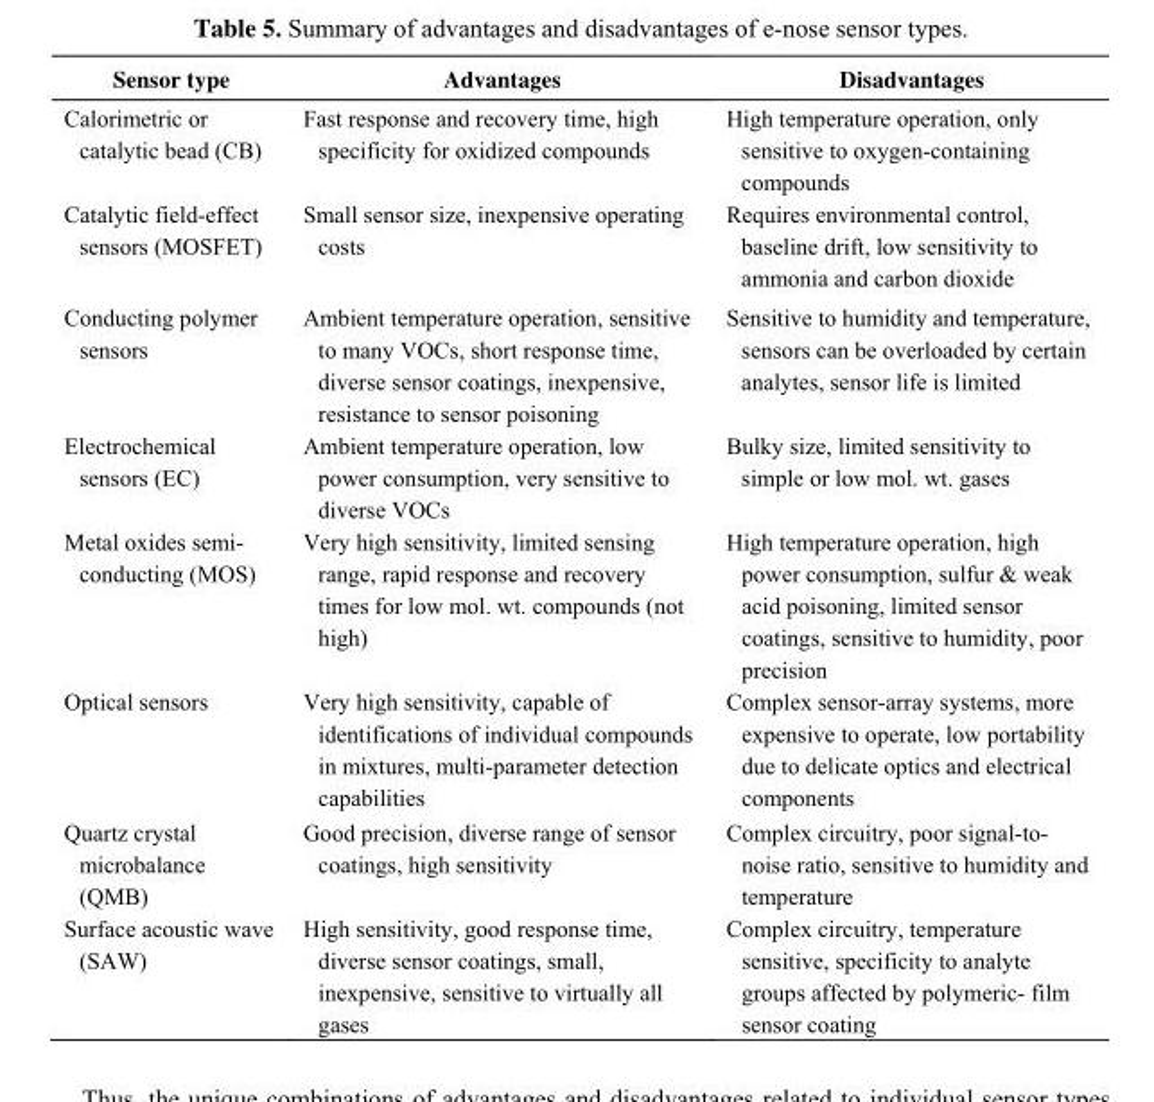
<table><thead><tr><td>Sensor type</td><td>Advantages</td><td>Disadvantages</td></tr></thead><tbody><tr><td>Calorimetric or catalytic bead (CB)</td><td>Fast response and recovery time, high specificity for oxidized compounds</td><td>High temperature operation, only sensitive to oxygen-containing compounds</td></tr><tr><td>Catalytic field-effect sensors (MOSFET)</td><td>Small sensor size, inexpensive operating costs</td><td>Requires environmental control, baseline drift, low sensitivity to ammonia and carbon dioxide</td></tr><tr><td>Conducting polymer sensors</td><td>Ambient temperature operation, sensitive to many VOCs, short response time, diverse sensor coatings, inexpensive, resistance to sensor poisoning</td><td>Sensitive to humidity and temperature, sensors can be overloaded by certain analytes, sensor life is limited</td></tr><tr><td>Electrochemical sensors (EC)</td><td>Ambient temperature operation, low power consumption, very sensitive to diverse VOCs</td><td>Bulky size, limited sensitivity to simple or low mol. wt. gases</td></tr><tr><td>Metal oxides semi- conducting (MOS)</td><td>Very high sensitivity, limited sensing range, rapid response and recovery times for low mol. wt. compounds (not high)</td><td>High temperature operation, high power consumption, sulfur &amp; weak acid poisoning, limited sensor coatings, sensitive to humidity, poor precision</td></tr><tr><td>Optical sensors</td><td>Very high sensitivity, capable of identifications of individual compounds in mixtures, multi-parameter detection capabilities</td><td>Complex sensor-array systems, more expensive to operate, low portability due to delicate optics and electrical components</td></tr><tr><td>Quartz crystal microbalance (QMB)</td><td>Good precision, diverse range of sensor coatings, high sensitivity</td><td>Complex circuitry, poor signal-to- noise ratio, sensitive to humidity and temperature</td></tr><tr><td>Surface acoustic wave (SAW)</td><td>High sensitivity, good response time, diverse sensor coatings, small, inexpensive, sensitive to virtually all gases</td><td>Complex circuitry, temperature sensitive, specificity to analyte groups affected by polymeric- film sensor coating</td></tr></tbody></table>